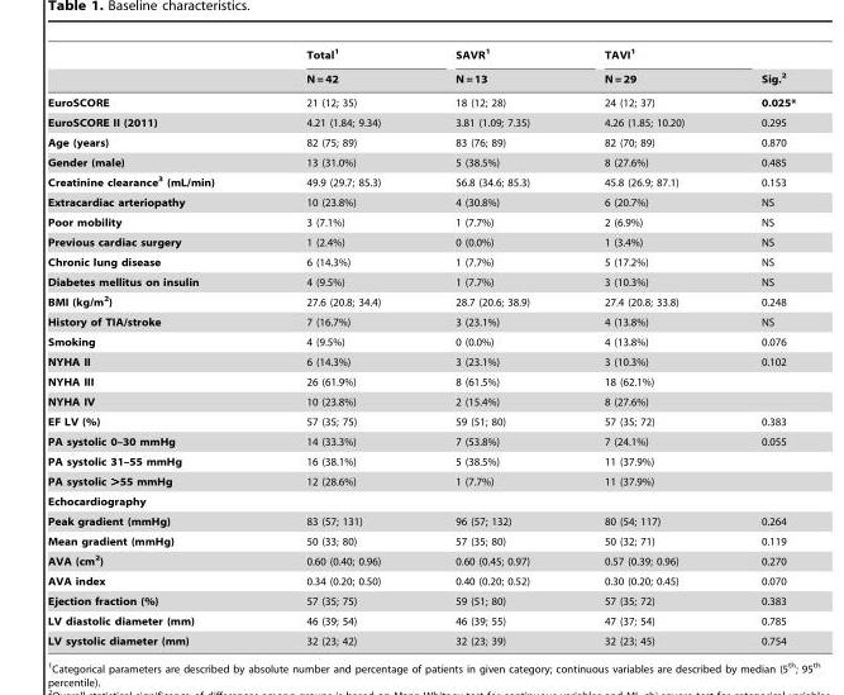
<table><thead><tr><td rowspan="2"></td><td rowspan="2">Total<sup>1</sup> N = 42</td><td rowspan="2">SAVR<sup>1</sup> N = 13</td><td rowspan="2">TAVI<sup>1</sup> N = 29</td><td rowspan="2">Sig.<sup>2</sup></td></tr><tr></tr></thead><tbody><tr><td>EuroSCORE</td><td>21 (12; 35)</td><td>18 (12; 28)</td><td>24 (12; 37)</td><td>0.025*</td></tr><tr><td>EuroSCORE II (2011)</td><td>4.21 (1.84; 9.34)</td><td>3.81 (1.09; 7.35)</td><td>4.26 (1.85; 10.20)</td><td>0.295</td></tr><tr><td>Age (years)</td><td>82 (75; 89)</td><td>83 (76; 89)</td><td>82 (70; 89)</td><td>0.870</td></tr><tr><td>Gender (male)</td><td>13 (31.0%)</td><td>5 (38.5%)</td><td>8 (27.6%)</td><td>0.485</td></tr><tr><td>Creatinine clearance3 (mL/min)</td><td>49.9 (29.7; 85.3)</td><td>56.8 (34.6; 85.3)</td><td>45.8 (26.9; 87.1)</td><td>0.153</td></tr><tr><td>Extracardiac arteriopathy</td><td>10 (23.8%)</td><td>4 (30.8%)</td><td>6 (20.7%)</td><td>NS</td></tr><tr><td>Poor mobility</td><td>3 (7.1%)</td><td>1 (7.7%)</td><td>2 (6.9%)</td><td>NS</td></tr><tr><td>Previous cardiac surgery</td><td>1 (2.4%)</td><td>0 (0.0%)</td><td>1 (3.4%)</td><td>NS</td></tr><tr><td>Chronic lung disease</td><td>6 (14.3%)</td><td>1 (7.7%)</td><td>5 (17.2%)</td><td>NS</td></tr><tr><td>Diabetes mellitus on insulin</td><td>4 (9.5%)</td><td>1 (7.7%)</td><td>3 (10.3%)</td><td>NS</td></tr><tr><td>BMI (kg/m<sup>2</sup>)</td><td>27.6 (20.8; 34.4)</td><td>28.7 (20.6; 38.9)</td><td>27.4 (20.8; 33.8)</td><td>0.248</td></tr><tr><td>History of TIA/stroke</td><td>7 (16.7%)</td><td>3 (23.1%)</td><td>4 (13.8%)</td><td>NS</td></tr><tr><td>Smoking</td><td>4 (9.5%)</td><td>0 (0.0%)</td><td>4 (13.8%)</td><td>0.076</td></tr><tr><td>NYHA II</td><td>6 (14.3%)</td><td>3 (23.1%)</td><td>3 (10.3%)</td><td>0.102</td></tr><tr><td>NYHA III</td><td>26 (61.9%)</td><td>8 (61.5%)</td><td>18 (62.1%)</td><td></td></tr><tr><td>NYHA IV</td><td>10 (23.8%)</td><td>2 (15.4%)</td><td>8 (27.6%)</td><td></td></tr><tr><td>EF LV (%)</td><td>57 (35; 75)</td><td>59 (51; 80)</td><td>57 (35; 72)</td><td>0.383</td></tr><tr><td>PA systolic 0–30 mmHg</td><td>14 (33.3%)</td><td>7 (53.8%)</td><td>7 (24.1%)</td><td>0.055</td></tr><tr><td>PA systolic 31–55 mmHg</td><td>16 (38.1%)</td><td>5 (38.5%)</td><td>11 (37.9%)</td><td></td></tr><tr><td>PA systolic &gt;55 mmHg</td><td>12 (28.6%)</td><td>1 (7.7%)</td><td>11 (37.9%)</td><td></td></tr><tr><td colspan="5">Echocardiography</td></tr><tr><td>Peak gradient (mmHg)</td><td>83 (57; 131)</td><td>96 (57; 132)</td><td>80 (54; 117)</td><td>0.264</td></tr><tr><td>Mean gradient (mmHg)</td><td>50 (33; 80)</td><td>57 (35; 80)</td><td>50 (32; 71)</td><td>0.119</td></tr><tr><td>AVA (cm<sup>2</sup>)</td><td>0.60 (0.40; 0.96)</td><td>0.60 (0.45; 0.97)</td><td>0.57 (0.39; 0.96)</td><td>0.270</td></tr><tr><td>AVA index</td><td>0.34 (0.20; 0.50)</td><td>0.40 (0.20; 0.52)</td><td>0.30 (0.20; 0.45)</td><td>0.070</td></tr><tr><td>Ejection fraction (%)</td><td>57 (35; 75)</td><td>59 (51; 80)</td><td>57 (35; 72)</td><td>0.383</td></tr><tr><td>LV diastolic diameter (mm)</td><td>46 (39; 54)</td><td>46 (39; 55)</td><td>47 (37; 54)</td><td>0.785</td></tr><tr><td>LV systolic diameter (mm)</td><td>32 (23; 42)</td><td>32 (23; 39)</td><td>32 (23; 45)</td><td>0.754</td></tr></tbody></table>